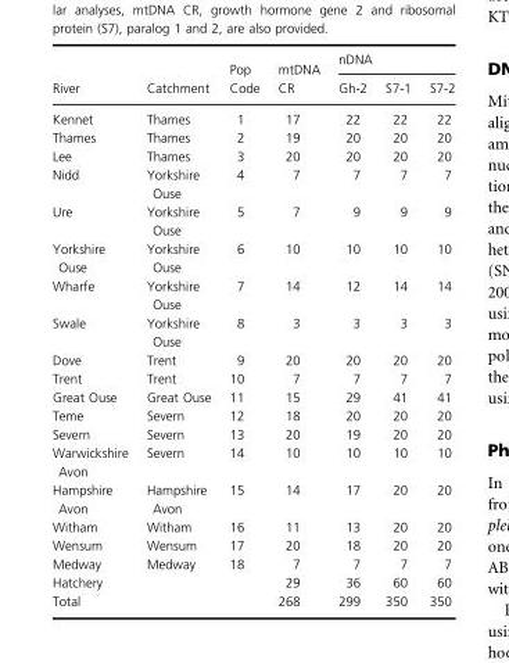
<table><thead><tr><td rowspan="2">River</td><td rowspan="2">Catchment</td><td rowspan="2">Pop Code</td><td rowspan="2">mtDNA CR</td><td colspan="3">nDNA</td></tr><tr><td>Gh-2</td><td>S7-1</td><td>S7-2</td></tr></thead><tbody><tr><td>Kennet</td><td>Thames</td><td>1</td><td>17</td><td>22</td><td>22</td><td>22</td></tr><tr><td>Thames</td><td>Thames</td><td>2</td><td>19</td><td>20</td><td>20</td><td>20</td></tr><tr><td>Lee</td><td>Thames</td><td>3</td><td>20</td><td>20</td><td>20</td><td>20</td></tr><tr><td>Nidd</td><td>Yorkshire Ouse</td><td>4</td><td>7</td><td>7</td><td>7</td><td>7</td></tr><tr><td>Ure</td><td>Yorkshire Ouse</td><td>5</td><td>7</td><td>9</td><td>9</td><td>9</td></tr><tr><td>Yorkshire Ouse</td><td>Yorkshire Ouse</td><td>6</td><td>10</td><td>10</td><td>10</td><td>10</td></tr><tr><td>Wharfe</td><td>Yorkshire Ouse</td><td>7</td><td>14</td><td>12</td><td>14</td><td>14</td></tr><tr><td>Swale</td><td>Yorkshire Ouse</td><td>8</td><td>3</td><td>3</td><td>3</td><td>3</td></tr><tr><td>Dove</td><td>Trent</td><td>9</td><td>20</td><td>20</td><td>20</td><td>20</td></tr><tr><td>Trent</td><td>Trent</td><td>10</td><td>7</td><td>7</td><td>7</td><td>7</td></tr><tr><td>Great Ouse</td><td>Great Ouse</td><td>11</td><td>15</td><td>29</td><td>41</td><td>41</td></tr><tr><td>Teme</td><td>Severn</td><td>12</td><td>18</td><td>20</td><td>20</td><td>20</td></tr><tr><td>Severn</td><td>Severn</td><td>13</td><td>20</td><td>19</td><td>20</td><td>20</td></tr><tr><td>Warwickshire Avon</td><td>Severn</td><td>14</td><td>10</td><td>10</td><td>10</td><td>10</td></tr><tr><td>Hampshire Avon</td><td>Hampshire Avon</td><td>15</td><td>14</td><td>17</td><td>20</td><td>20</td></tr><tr><td>Witham</td><td>Witham</td><td>16</td><td>11</td><td>13</td><td>20</td><td>20</td></tr><tr><td>Wensum</td><td>Wensum</td><td>17</td><td>20</td><td>18</td><td>20</td><td>20</td></tr><tr><td>Medway</td><td>Medway</td><td>18</td><td>7</td><td>7</td><td>7</td><td>7</td></tr><tr><td>Hatchery</td><td></td><td></td><td>29</td><td>36</td><td>60</td><td>60</td></tr><tr><td>Total</td><td></td><td></td><td>268</td><td>299</td><td>350</td><td>350</td></tr></tbody></table>